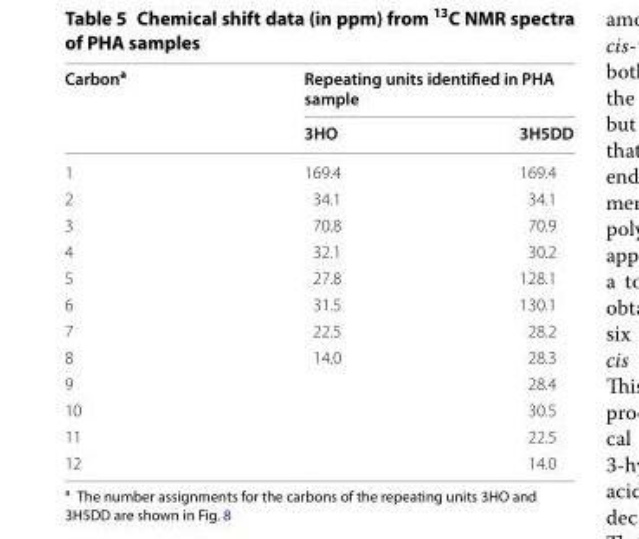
<table><thead><tr><td rowspan="2">Carbon<sup>a</sup></td><td colspan="2">Repeating units identified in PHA sample</td></tr><tr><td>3HO</td><td>3H5DD</td></tr></thead><tbody><tr><td>1</td><td>169.4</td><td>169.4</td></tr><tr><td>2</td><td>34.1</td><td>34.1</td></tr><tr><td>3</td><td>70.8</td><td>70.9</td></tr><tr><td>4</td><td>32.1</td><td>30.2</td></tr><tr><td>5</td><td>27.8</td><td>128.1</td></tr><tr><td>6</td><td>31.5</td><td>130.1</td></tr><tr><td>7</td><td>22.5</td><td>28.2</td></tr><tr><td>8</td><td>14.0</td><td>28.3</td></tr><tr><td>9</td><td></td><td>28.4</td></tr><tr><td>10</td><td></td><td>30.5</td></tr><tr><td>11</td><td></td><td>22.5</td></tr><tr><td>12</td><td></td><td>14.0</td></tr></tbody></table>